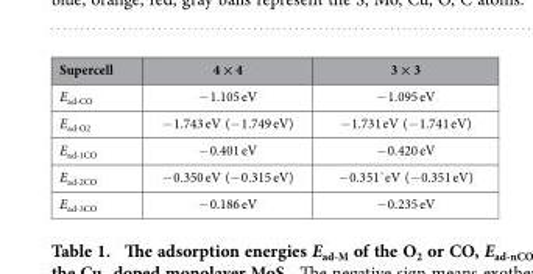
<table><thead><tr><td>Supercell</td><td>4 × 4</td><td>3 × 3</td></tr></thead><tbody><tr><td>E<sub>ad-CO</sub></td><td>− 1.105 eV</td><td>− 1.095 eV</td></tr><tr><td>E<sub>ad-O2</sub></td><td>− 1.743 eV (− 1.749 eV)</td><td>− 1.731 eV (− 1.741 eV)</td></tr><tr><td>E<sub>ad-1CO</sub></td><td>− 0.401 eV</td><td>− 0.420 eV</td></tr><tr><td>E<sub>ad-2CO</sub></td><td>− 0.350 eV (− 0.315 eV)</td><td>− 0.351`eV (− 0.351 eV)</td></tr><tr><td>E<sub>ad-3CO</sub></td><td>− 0.186 eV</td><td>− 0.235 eV</td></tr></tbody></table>